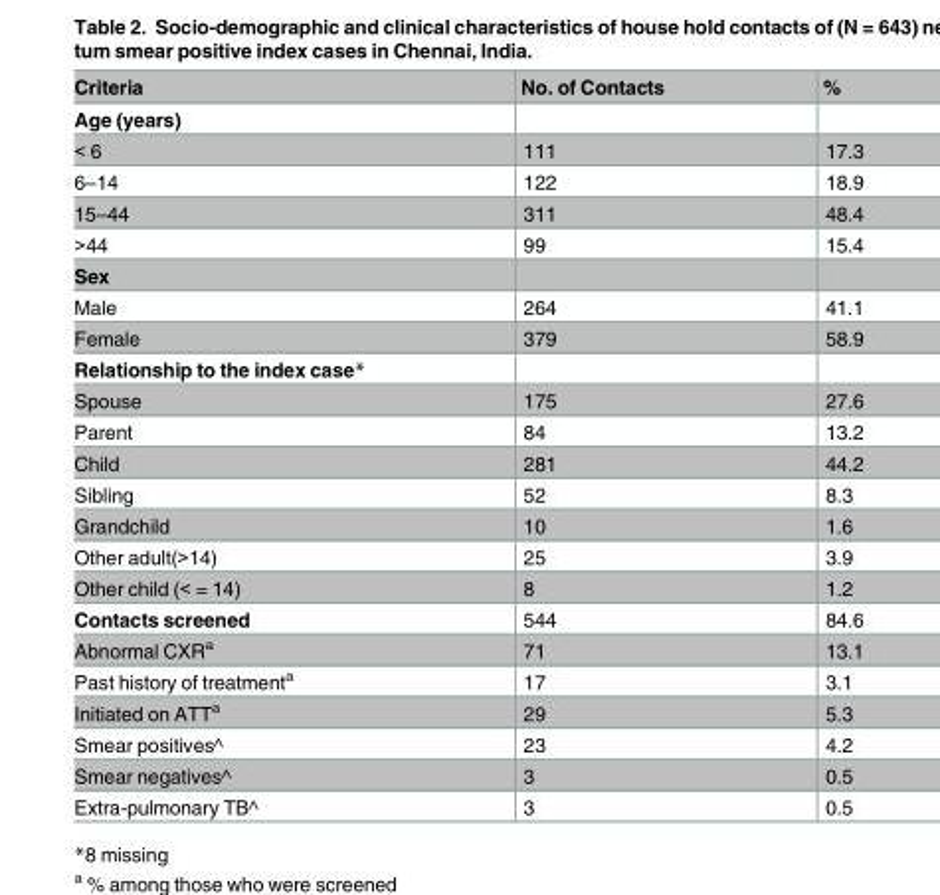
<table><thead><tr><td>Criteria</td><td>No. of Contacts</td><td>%</td></tr></thead><tbody><tr><td colspan="3">Age (years)</td></tr><tr><td>&lt; 6</td><td>111</td><td>17.3</td></tr><tr><td>6–14</td><td>122</td><td>18.9</td></tr><tr><td>15–44</td><td>311</td><td>48.4</td></tr><tr><td>&gt;44</td><td>99</td><td>15.4</td></tr><tr><td colspan="3">Sex</td></tr><tr><td>Male</td><td>264</td><td>41.1</td></tr><tr><td>Female</td><td>379</td><td>58.9</td></tr><tr><td colspan="3">Relationship to the index case*</td></tr><tr><td>Spouse</td><td>175</td><td>27.6</td></tr><tr><td>Parent</td><td>84</td><td>13.2</td></tr><tr><td>Child</td><td>281</td><td>44.2</td></tr><tr><td>Sibling</td><td>52</td><td>8.3</td></tr><tr><td>Grandchild</td><td>10</td><td>1.6</td></tr><tr><td>Other adult(&gt;14)</td><td>25</td><td>3.9</td></tr><tr><td>Other child (&lt; = 14)</td><td>8</td><td>1.2</td></tr><tr><td>Contacts screened</td><td>544</td><td>84.6</td></tr><tr><td>Abnormal CXR<sup>a</sup></td><td>71</td><td>13.1</td></tr><tr><td>Past history of treatment<sup>a</sup></td><td>17</td><td>3.1</td></tr><tr><td>Initiated on ATT<sup>a</sup></td><td>29</td><td>5.3</td></tr><tr><td>Smear positives^</td><td>23</td><td>4.2</td></tr><tr><td>Smear negatives^</td><td>3</td><td>0.5</td></tr><tr><td>Extra-pulmonary TB^</td><td>3</td><td>0.5</td></tr></tbody></table>